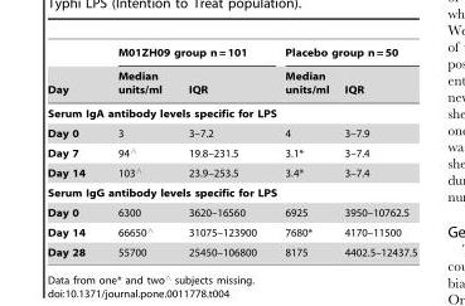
<table><thead><tr><td rowspan="2">Day</td><td colspan="2">M01ZH09 group n = 101</td><td colspan="2">Placebo group n = 50</td></tr><tr><td>Median units/ml</td><td>IQR</td><td>Median units/ml</td><td>IQR</td></tr></thead><tbody><tr><td colspan="5">Serum IgA antibody levels specific for LPS</td></tr><tr><td>Day 0</td><td>3</td><td>3–7.2</td><td>4</td><td>3–7.9</td></tr><tr><td>Day 7</td><td>94‘</td><td>19.8–231.5</td><td>3.1*</td><td>3–7.4</td></tr><tr><td>Day 14</td><td>103‘</td><td>23.9–253.5</td><td>3.4*</td><td>3–7.4</td></tr><tr><td colspan="5">Serum IgG antibody levels specific for LPS</td></tr><tr><td>Day 0</td><td>6300</td><td>3620–16560</td><td>6925</td><td>3950–10762.5</td></tr><tr><td>Day 14</td><td>66650‘</td><td>31075–123900</td><td>7680*</td><td>4170–11500</td></tr><tr><td>Day 28</td><td>55700</td><td>25450–106800</td><td>8175</td><td>4402.5–12437.5</td></tr></tbody></table>